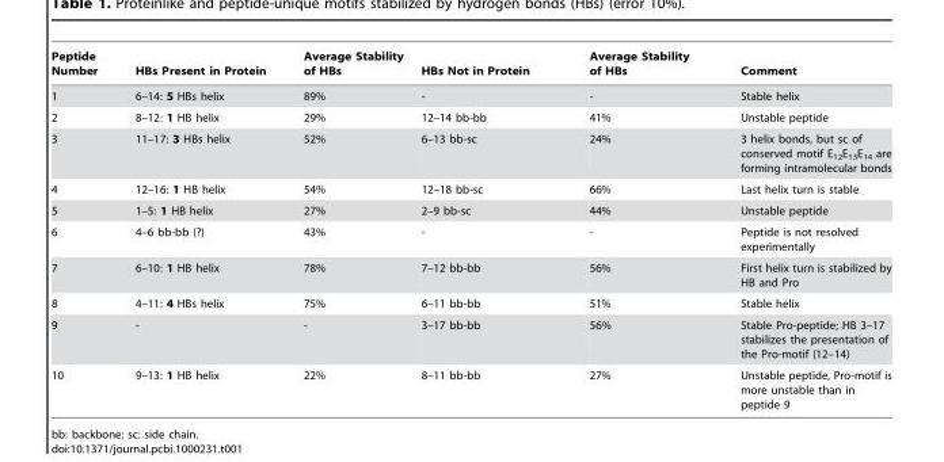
<table><thead><tr><td>Peptide Number</td><td>HBs Present in Protein</td><td>Average Stability of HBs</td><td>HBs Not in Protein</td><td>Average Stability of HBs</td><td>Comment</td></tr></thead><tbody><tr><td>1</td><td>6–14: 5 HBs helix</td><td>89%</td><td>-</td><td>-</td><td>Stable helix</td></tr><tr><td>2</td><td>8–12: 1 HB helix</td><td>29%</td><td>12–14 bb-bb</td><td>41%</td><td>Unstable peptide</td></tr><tr><td>3</td><td>11–17: 3 HBs helix</td><td>52%</td><td>6–13 bb-sc</td><td>24%</td><td>3 helix bonds, but sc of conserved motif E<sub>12</sub>E<sub>13</sub>E<sub>14</sub> are forming intramolecular bonds</td></tr><tr><td>4</td><td>12–16: 1 HB helix</td><td>54%</td><td>12–18 bb-sc</td><td>66%</td><td>Last helix turn is stable</td></tr><tr><td>5</td><td>1–5: 1 HB helix</td><td>27%</td><td>2–9 bb-sc</td><td>44%</td><td>Unstable peptide</td></tr><tr><td>6</td><td>4–6 bb-bb (?)</td><td>43%</td><td>-</td><td>-</td><td>Peptide is not resolved experimentally</td></tr><tr><td>7</td><td>6–10: 1 HB helix</td><td>78%</td><td>7–12 bb-bb</td><td>56%</td><td>First helix turn is stabilized by HB and Pro</td></tr><tr><td>8</td><td>4–11: 4 HBs helix</td><td>75%</td><td>6–11 bb-bb</td><td>51%</td><td>Stable helix</td></tr><tr><td>9</td><td>-</td><td>-</td><td>3–17 bb-bb</td><td>56%</td><td>Stable Pro-peptide; HB 3–17 stabilizes the presentation of the Pro-motif (12–14)</td></tr><tr><td>10</td><td>9–13: 1 HB helix</td><td>22%</td><td>8–11 bb-bb</td><td>27%</td><td>Unstable peptide, Pro-motif is more unstable than in peptide 9</td></tr></tbody></table>